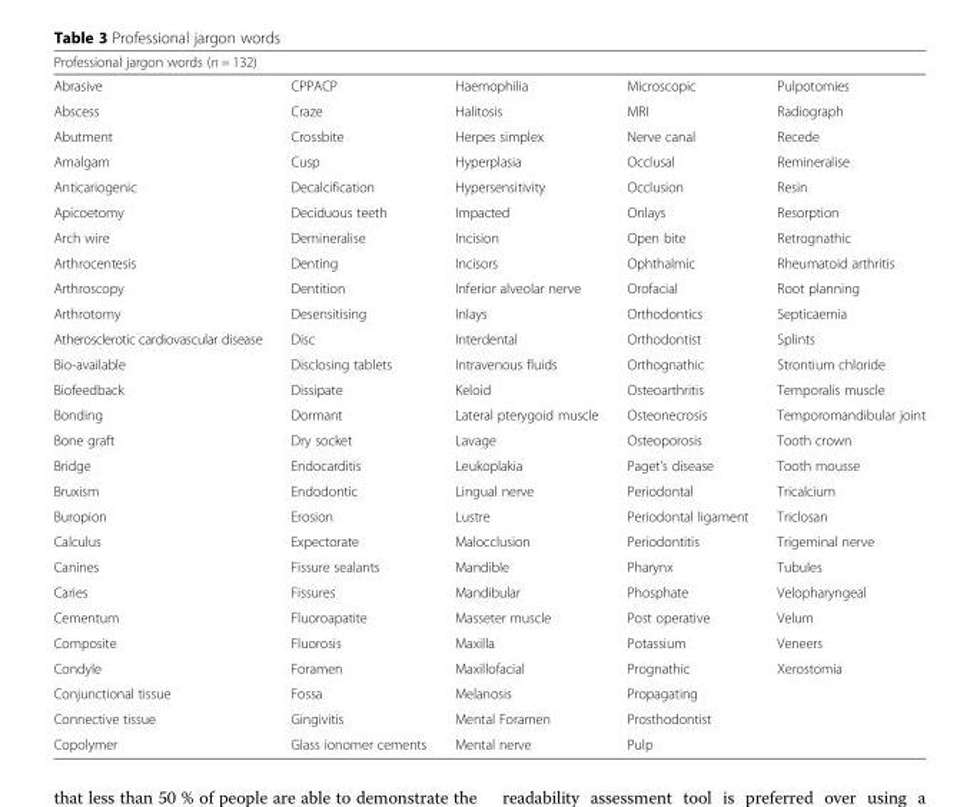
<table><thead><tr><td colspan="5">Professional jargon words (n = 132)</td></tr><tr><td>Abrasive</td><td>CPPACP</td><td>Haemophilia</td><td>Microscopic</td><td>Pulpotomies</td></tr></thead><tbody><tr><td>Abscess</td><td>Craze</td><td>Halitosis</td><td>MRI</td><td>Radiograph</td></tr><tr><td>Abutment</td><td>Crossbite</td><td>Herpes simplex</td><td>Nerve canal</td><td>Recede</td></tr><tr><td>Amalgam</td><td>Cusp</td><td>Hyperplasia</td><td>Occlusal</td><td>Remineralise</td></tr><tr><td>Anticariogenic</td><td>Decalcification</td><td>Hypersensitivity</td><td>Occlusion</td><td>Resin</td></tr><tr><td>Apicoetomy</td><td>Deciduous teeth</td><td>Impacted</td><td>Onlays</td><td>Resorption</td></tr><tr><td>Arch wire</td><td>Demineralise</td><td>Incision</td><td>Open bite</td><td>Retrognathic</td></tr><tr><td>Arthrocentesis</td><td>Denting</td><td>Incisors</td><td>Ophthalmic</td><td>Rheumatoid arthritis</td></tr><tr><td>Arthroscopy</td><td>Dentition</td><td>Inferior alveolar nerve</td><td>Orofacial</td><td>Root planning</td></tr><tr><td>Arthrotomy</td><td>Desensitising</td><td>Inlays</td><td>Orthodontics</td><td>Septicaemia</td></tr><tr><td>Atherosclerotic cardiovascular disease</td><td>Disc</td><td>Interdental</td><td>Orthodontist</td><td>Splints</td></tr><tr><td>Bio-available</td><td>Disclosing tablets</td><td>Intravenous fluids</td><td>Orthognathic</td><td>Strontium chloride</td></tr><tr><td>Biofeedback</td><td>Dissipate</td><td>Keloid</td><td>Osteoarthritis</td><td>Temporalis muscle</td></tr><tr><td>Bonding</td><td>Dormant</td><td>Lateral pterygoid muscle</td><td>Osteonecrosis</td><td>Temporomandibular joint</td></tr><tr><td>Bone graft</td><td>Dry socket</td><td>Lavage</td><td>Osteoporosis</td><td>Tooth crown</td></tr><tr><td>Bridge</td><td>Endocarditis</td><td>Leukoplakia</td><td>Paget’s disease</td><td>Tooth mousse</td></tr><tr><td>Bruxism</td><td>Endodontic</td><td>Lingual nerve</td><td>Periodontal</td><td>Tricalcium</td></tr><tr><td>Buropion</td><td>Erosion</td><td>Lustre</td><td>Periodontal ligament</td><td>Triclosan</td></tr><tr><td>Calculus</td><td>Expectorate</td><td>Malocclusion</td><td>Periodontitis</td><td>Trigeminal nerve</td></tr><tr><td>Canines</td><td>Fissure sealants</td><td>Mandible</td><td>Pharynx</td><td>Tubules</td></tr><tr><td>Caries</td><td>Fissures</td><td>Mandibular</td><td>Phosphate</td><td>Velopharyngeal</td></tr><tr><td>Cementum</td><td>Fluoroapatite</td><td>Masseter muscle</td><td>Post operative</td><td>Velum</td></tr><tr><td>Composite</td><td>Fluorosis</td><td>Maxilla</td><td>Potassium</td><td>Veneers</td></tr><tr><td>Condyle</td><td>Foramen</td><td>Maxillofacial</td><td>Prognathic</td><td>Xerostomia</td></tr><tr><td>Conjunctional tissue</td><td>Fossa</td><td>Melanosis</td><td>Propagating</td><td></td></tr><tr><td>Connective tissue</td><td>Gingivitis</td><td>Mental Foramen</td><td>Prosthodontist</td><td></td></tr><tr><td>Copolymer</td><td>Glass ionomer cements</td><td>Mental nerve</td><td>Pulp</td><td></td></tr></tbody></table>